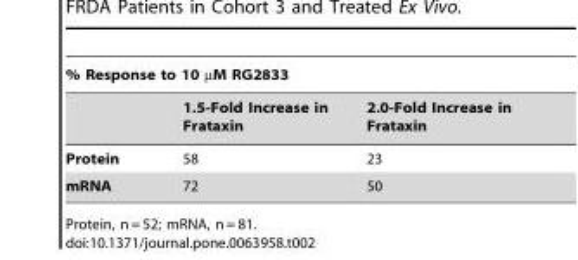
<table><thead><tr><td colspan="3">% Response to 10 µM RG2833</td></tr><tr><td></td><td>1.5-Fold Increase in Frataxin</td><td>2.0-Fold Increase in Frataxin</td></tr></thead><tbody><tr><td>Protein</td><td>58</td><td>23</td></tr><tr><td>mRNA</td><td>72</td><td>50</td></tr></tbody></table>